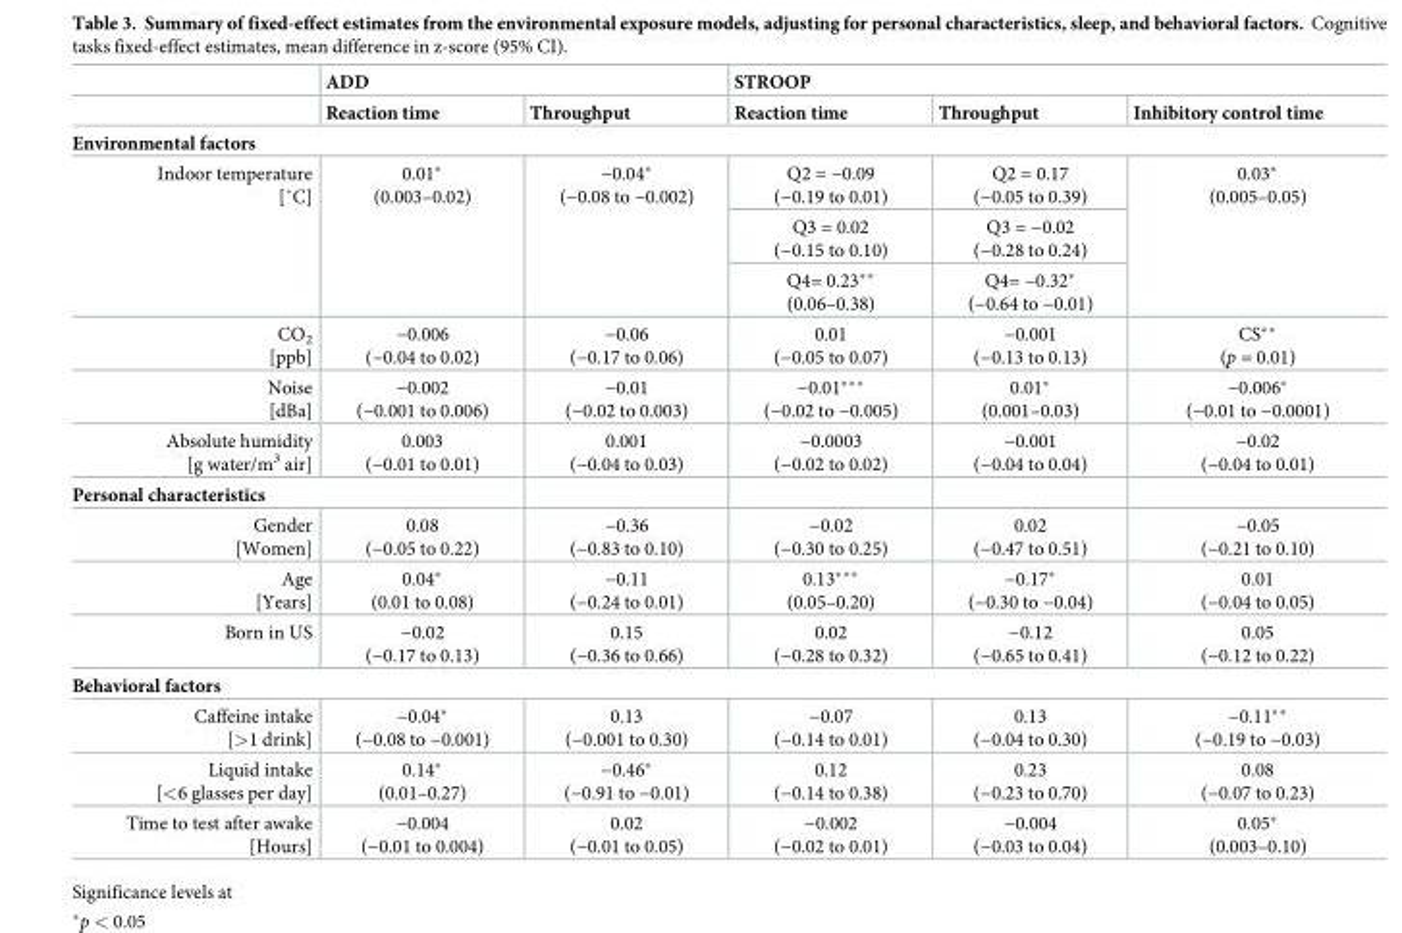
<table><thead><tr><td rowspan="2"></td><td colspan="2">ADD</td><td colspan="3">STROOP</td></tr><tr><td>Reaction time</td><td>Throughput</td><td>Reaction time</td><td>Throughput</td><td>Inhibitory control time</td></tr></thead><tbody><tr><td colspan="6">Environmental factors</td></tr><tr><td rowspan="3">Indoor temperature [˚C]</td><td rowspan="3">0.01* (0.003–0.02)</td><td rowspan="3">−0.04* (−0.08 to −0.002)</td><td>Q2 = −0.09 (−0.19 to 0.01)</td><td>Q2 = 0.17 (−0.05 to 0.39)</td><td rowspan="3">0.03* (0.005–0.05)</td></tr><tr><td>Q3 = 0.02 (−0.15 to 0.10)</td><td>Q3 = −0.02 (−0.28 to 0.24)</td></tr><tr><td>Q4= 0.23** (0.06–0.38)</td><td>Q4= −0.32* (−0.64 to −0.01)</td></tr><tr><td>CO<sub>2</sub> [ppb]</td><td>−0.006 (−0.04 to 0.02)</td><td>−0.06 (−0.17 to 0.06)</td><td>0.01 (−0.05 to 0.07)</td><td>−0.001 (−0.13 to 0.13)</td><td>CS** (p = 0.01)</td></tr><tr><td>Noise [dBa]</td><td>−0.002 (−0.001 to 0.006)</td><td>−0.01 (−0.02 to 0.003)</td><td>−0.01*** (−0.02 to −0.005)</td><td>0.01* (0.001–0.03)</td><td>−0.006* (−0.01 to −0.0001)</td></tr><tr><td>Absolute humidity [g water/m<sup>3</sup> air]</td><td>0.003 (−0.01 to 0.01)</td><td>0.001 (−0.04 to 0.03)</td><td>−0.0003 (−0.02 to 0.02)</td><td>−0.001 (−0.04 to 0.04)</td><td>−0.02 (−0.04 to 0.01)</td></tr><tr><td colspan="6">Personal characteristics</td></tr><tr><td>Gender [Women]</td><td>0.08 (−0.05 to 0.22)</td><td>−0.36 (−0.83 to 0.10)</td><td>−0.02 (−0.30 to 0.25)</td><td>0.02 (−0.47 to 0.51)</td><td>−0.05 (−0.21 to 0.10)</td></tr><tr><td>Age [Years]</td><td>0.04* (0.01 to 0.08)</td><td>−0.11 (−0.24 to 0.01)</td><td>0.13*** (0.05–0.20)</td><td>−0.17* (−0.30 to −0.04)</td><td>0.01 (−0.04 to 0.05)</td></tr><tr><td>Born in US</td><td>−0.02 (−0.17 to 0.13)</td><td>0.15 (−0.36 to 0.66)</td><td>0.02 (−0.28 to 0.32)</td><td>−0.12 (−0.65 to 0.41)</td><td>0.05 (−0.12 to 0.22)</td></tr><tr><td colspan="6">Behavioral factors</td></tr><tr><td>Caffeine intake [&gt;1 drink]</td><td>−0.04* (−0.08 to −0.001)</td><td>0.13 (−0.001 to 0.30)</td><td>−0.07 (−0.14 to 0.01)</td><td>0.13 (−0.04 to 0.30)</td><td>−0.11** (−0.19 to −0.03)</td></tr><tr><td>Liquid intake [&lt;6 glasses per day]</td><td>0.14* (0.01–0.27)</td><td>−0.46* (−0.91 to −0.01)</td><td>0.12 (−0.14 to 0.38)</td><td>0.23 (−0.23 to 0.70)</td><td>0.08 (−0.07 to 0.23)</td></tr><tr><td>Time to test after awake [Hours]</td><td>−0.004 (−0.01 to 0.004)</td><td>0.02 (−0.01 to 0.05)</td><td>−0.002 (−0.02 to 0.01)</td><td>−0.004 (−0.03 to 0.04)</td><td>0.05* (0.003–0.10)</td></tr></tbody></table>